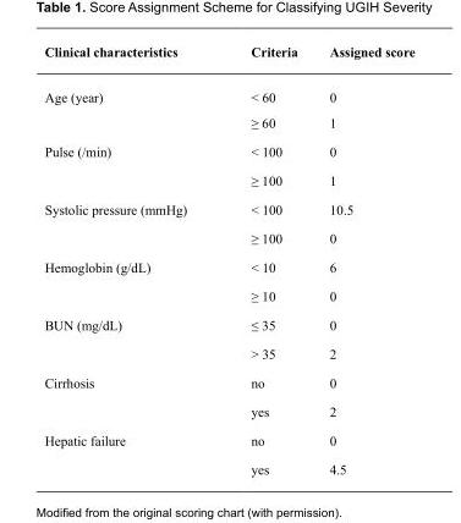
<table><thead><tr><td>Clinical characteristics</td><td>Criteria</td><td>Assigned score</td></tr></thead><tbody><tr><td rowspan="2">Age (year)</td><td>&lt; 60</td><td>0</td></tr><tr><td>≥ 60</td><td>1</td></tr><tr><td rowspan="2">Pulse (/min)</td><td>&lt; 100</td><td>0</td></tr><tr><td>≥ 100</td><td>1</td></tr><tr><td rowspan="2">Systolic pressure (mmHg)</td><td>&lt; 100</td><td>10.5</td></tr><tr><td>≥ 100</td><td>0</td></tr><tr><td rowspan="2">Hemoglobin (g/dL)</td><td>&lt; 10</td><td>6</td></tr><tr><td>≥ 10</td><td>0</td></tr><tr><td rowspan="2">BUN (mg/dL)</td><td>≤ 35</td><td>0</td></tr><tr><td>&gt; 35</td><td>2</td></tr><tr><td rowspan="2">Cirrhosis</td><td>no</td><td>0</td></tr><tr><td>yes</td><td>2</td></tr><tr><td rowspan="2">Hepatic failure</td><td>no</td><td>0</td></tr><tr><td>yes</td><td>4.5</td></tr></tbody></table>